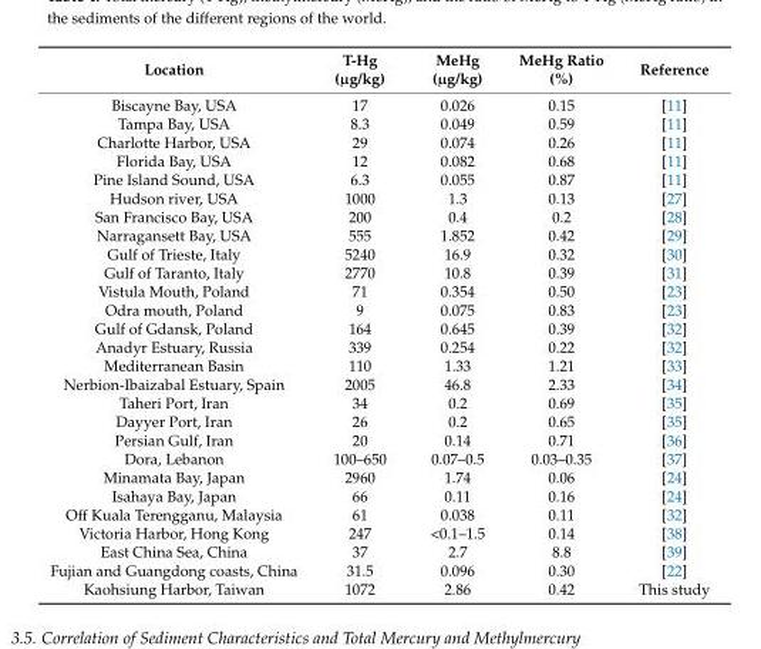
<table><thead><tr><td>Location</td><td>T-Hg (µg/kg)</td><td>MeHg (µg/kg)</td><td>MeHg Ratio (%)</td><td>Reference</td></tr></thead><tbody><tr><td>Biscayne Bay, USA</td><td>17</td><td>0.026</td><td>0.15</td><td>[11]</td></tr><tr><td>Tampa Bay, USA</td><td>8.3</td><td>0.049</td><td>0.59</td><td>[11]</td></tr><tr><td>Charlotte Harbor, USA</td><td>29</td><td>0.074</td><td>0.26</td><td>[11]</td></tr><tr><td>Florida Bay, USA</td><td>12</td><td>0.082</td><td>0.68</td><td>[11]</td></tr><tr><td>Pine Island Sound, USA</td><td>6.3</td><td>0.055</td><td>0.87</td><td>[11]</td></tr><tr><td>Hudson river, USA</td><td>1000</td><td>1.3</td><td>0.13</td><td>[27]</td></tr><tr><td>San Francisco Bay, USA</td><td>200</td><td>0.4</td><td>0.2</td><td>[28]</td></tr><tr><td>Narragansett Bay, USA</td><td>555</td><td>1.852</td><td>0.42</td><td>[29]</td></tr><tr><td>Gulf of Trieste, Italy</td><td>5240</td><td>16.9</td><td>0.32</td><td>[30]</td></tr><tr><td>Gulf of Taranto, Italy</td><td>2770</td><td>10.8</td><td>0.39</td><td>[31]</td></tr><tr><td>Vistula Mouth, Poland</td><td>71</td><td>0.354</td><td>0.50</td><td>[23]</td></tr><tr><td>Odra mouth, Poland</td><td>9</td><td>0.075</td><td>0.83</td><td>[23]</td></tr><tr><td>Gulf of Gdansk, Poland</td><td>164</td><td>0.645</td><td>0.39</td><td>[32]</td></tr><tr><td>Anadyr Estuary, Russia</td><td>339</td><td>0.254</td><td>0.22</td><td>[32]</td></tr><tr><td>Mediterranean Basin</td><td>110</td><td>1.33</td><td>1.21</td><td>[33]</td></tr><tr><td>Nerbion-Ibaizabal Estuary, Spain</td><td>2005</td><td>46.8</td><td>2.33</td><td>[34]</td></tr><tr><td>Taheri Port, Iran</td><td>34</td><td>0.2</td><td>0.69</td><td>[35]</td></tr><tr><td>Dayyer Port, Iran</td><td>26</td><td>0.2</td><td>0.65</td><td>[35]</td></tr><tr><td>Persian Gulf, Iran</td><td>20</td><td>0.14</td><td>0.71</td><td>[36]</td></tr><tr><td>Dora, Lebanon</td><td>100–650</td><td>0.07–0.5</td><td>0.03–0.35</td><td>[37]</td></tr><tr><td>Minamata Bay, Japan</td><td>2960</td><td>1.74</td><td>0.06</td><td>[24]</td></tr><tr><td>Isahaya Bay, Japan</td><td>66</td><td>0.11</td><td>0.16</td><td>[24]</td></tr><tr><td>Off Kuala Terengganu, Malaysia</td><td>61</td><td>0.038</td><td>0.11</td><td>[32]</td></tr><tr><td>Victoria Harbor, Hong Kong</td><td>247</td><td>&lt;0.1–1.5</td><td>0.14</td><td>[38]</td></tr><tr><td>East China Sea, China</td><td>37</td><td>2.7</td><td>8.8</td><td>[39]</td></tr><tr><td>Fujian and Guangdong coasts, China</td><td>31.5</td><td>0.096</td><td>0.30</td><td>[22]</td></tr><tr><td>Kaohsiung Harbor, Taiwan</td><td>1072</td><td>2.86</td><td>0.42</td><td>This study</td></tr></tbody></table>